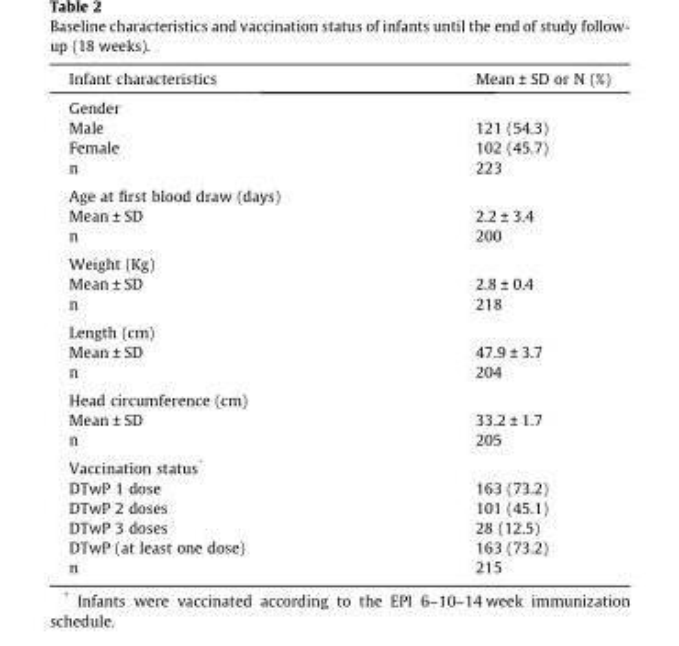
<table><thead><tr><td>Infant characteristics</td><td>Mean ± SD or N (%)</td></tr></thead><tbody><tr><td colspan="2">Gender</td></tr><tr><td>Male</td><td>121 (54.3)</td></tr><tr><td>Female</td><td>102 (45.7)</td></tr><tr><td>n</td><td>223</td></tr><tr><td colspan="2">Age at first blood draw (days)</td></tr><tr><td>Mean ± SD</td><td>2.2 ± 3.4</td></tr><tr><td>n</td><td>200</td></tr><tr><td colspan="2">Weight (Kg)</td></tr><tr><td>Mean ± SD</td><td>2.8 ± 0.4</td></tr><tr><td>n</td><td>218</td></tr><tr><td colspan="2">Length (cm)</td></tr><tr><td>Mean ± SD</td><td>47.9 ± 3.7</td></tr><tr><td>n</td><td>204</td></tr><tr><td colspan="2">Head circumference (cm)</td></tr><tr><td>Mean ± SD</td><td>33.2 ± 1.7</td></tr><tr><td>n</td><td>205</td></tr><tr><td colspan="2">Vaccination status*</td></tr><tr><td>DTwP 1 dose</td><td>163 (73.2)</td></tr><tr><td>DTwP 2 doses</td><td>101 (45.1)</td></tr><tr><td>DTwP 3 doses</td><td>28 (12.5)</td></tr><tr><td>DTwP (at least one dose)</td><td>163 (73.2)</td></tr><tr><td>n</td><td>215</td></tr></tbody></table>